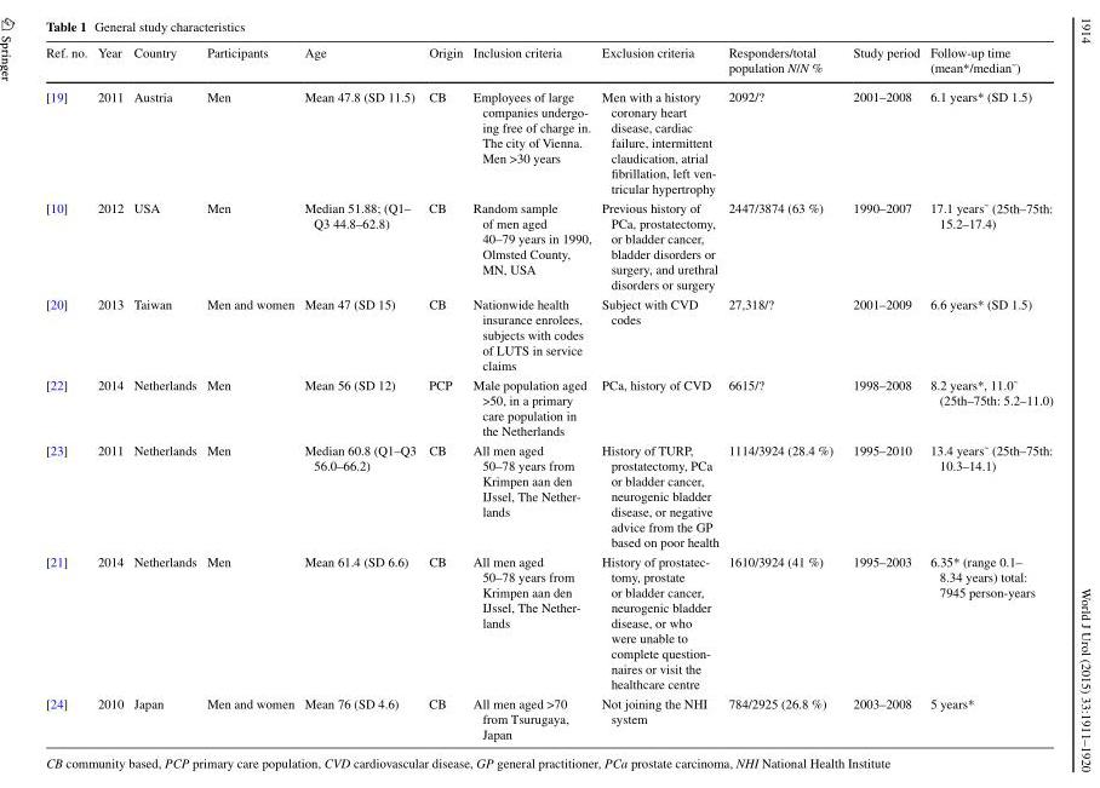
<table><thead><tr><td>Ref. no.</td><td>Year</td><td>Country</td><td>Participants</td><td>Age</td><td>Origin</td><td>Inclusion criteria</td><td>Exclusion criteria</td><td>Responders/total population N/N %</td><td>Study period</td><td>Follow-up time (mean*/median<sup>~</sup>)</td></tr></thead><tbody><tr><td>[19]</td><td>2011</td><td>Austria</td><td>Men</td><td>Mean 47.8 (SD 11.5)</td><td>CB</td><td>Employees of large companies undergo- ing free of charge in. The city of Vienna. Men &gt;30 years</td><td>Men with a history coronary heart disease, cardiac failure, intermittent claudication, atrial fibrillation, left ven- tricular hypertrophy</td><td>2092/?</td><td>2001–2008</td><td>6.1 years* (SD 1.5)</td></tr><tr><td>[10]</td><td>2012</td><td>USA</td><td>Men</td><td>Median 51.88; (Q1– Q3 44.8–62.8)</td><td>CB</td><td>Random sample of men aged 40–79 years in 1990, Olmsted County, MN, USA</td><td>Previous history of PCa, prostatectomy, or bladder cancer, bladder disorders or surgery, and urethral disorders or surgery</td><td>2447/3874 (63 %)</td><td>1990–2007</td><td>17.1 years<sup>~</sup> (25th–75th: 15.2–17.4)</td></tr><tr><td>[20]</td><td>2013</td><td>Taiwan</td><td>Men and women</td><td>Mean 47 (SD 15)</td><td>CB</td><td>Nationwide health insurance enrolees, subjects with codes of LUTS in service claims</td><td>Subject with CVD codes</td><td>27,318/?</td><td>2001–2009</td><td>6.6 years* (SD 1.5)</td></tr><tr><td>[22]</td><td>2014</td><td>Netherlands</td><td>Men</td><td>Mean 56 (SD 12)</td><td>PCP</td><td>Male population aged &gt;50, in a primary care population in the Netherlands</td><td>PCa, history of CVD</td><td>6615/?</td><td>1998–2008</td><td>8.2 years*, 11.0<sup>~</sup> (25th–75th: 5.2–11.0)</td></tr><tr><td>[23]</td><td>2011</td><td>Netherlands</td><td>Men</td><td>Median 60.8 (Q1–Q3 56.0–66.2)</td><td>CB</td><td>All men aged 50–78 years from Krimpen aan den IJssel, The Nether- lands</td><td>History of TURP, prostatectomy, PCa or bladder cancer, neurogenic bladder disease, or negative advice from the GP based on poor health</td><td>1114/3924 (28.4 %)</td><td>1995–2010</td><td>13.4 years<sup>~</sup> (25th–75th: 10.3–14.1)</td></tr><tr><td>[21]</td><td>2014</td><td>Netherlands</td><td>Men</td><td>Mean 61.4 (SD 6.6)</td><td>CB</td><td>All men aged 50–78 years from Krimpen aan den IJssel, The Nether- lands</td><td>History of prostatec- tomy, prostate or bladder cancer, neurogenic bladder disease, or who were unable to complete question- naires or visit the healthcare centre</td><td>1610/3924 (41 %)</td><td>1995–2003</td><td>6.35* (range 0.1– 8.34 years) total: 7945 person-years</td></tr><tr><td>[24]</td><td>2010</td><td>Japan</td><td>Men and women</td><td>Mean 76 (SD 4.6)</td><td>CB</td><td>All men aged &gt;70 from Tsurugaya, Japan</td><td>Not joining the NHI system</td><td>784/2925 (26.8 %)</td><td>2003–2008</td><td>5 years*</td></tr></tbody></table>